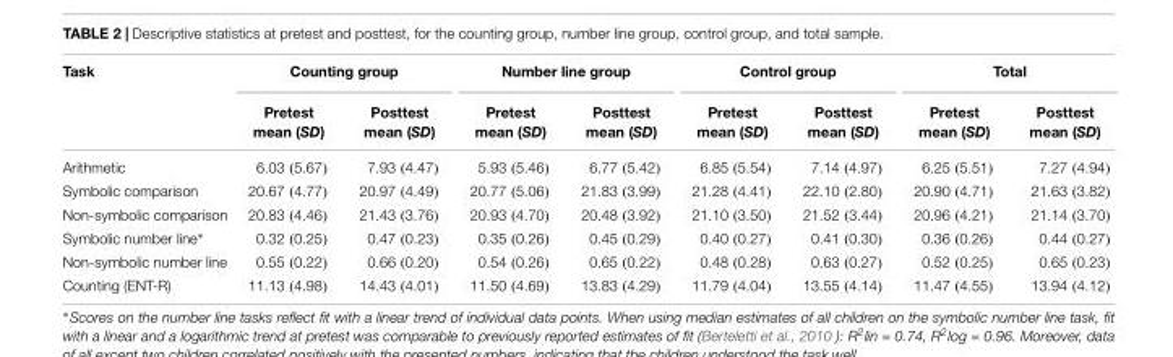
<table><thead><tr><td rowspan="2">Task</td><td colspan="2">Counting group</td><td colspan="2">Number line group</td><td colspan="2">Control group</td><td colspan="2">Total</td></tr><tr><td>Pretest mean (SD)</td><td>Posttest mean (SD)</td><td>Pretest mean (SD)</td><td>Posttest mean (SD)</td><td>Pretest mean (SD)</td><td>Posttest mean (SD)</td><td>Pretest mean (SD)</td><td>Posttest mean (SD)</td></tr></thead><tbody><tr><td>Arithmetic</td><td>6.03 (5.67)</td><td>7.93 (4.47)</td><td>5.93 (5.46)</td><td>6.77 (5.42)</td><td>6.85 (5.54)</td><td>7.14 (4.97)</td><td>6.25 (5.51)</td><td>7.27 (4.94)</td></tr><tr><td>Symbolic comparison</td><td>20.67 (4.77)</td><td>20.97 (4.49)</td><td>20.77 (5.06)</td><td>21.83 (3.99)</td><td>21.28 (4.41)</td><td>22.10 (2.80)</td><td>20.90 (4.71)</td><td>21.63 (3.82)</td></tr><tr><td>Non-symbolic comparison</td><td>20.83 (4.46)</td><td>21.43 (3.76)</td><td>20.93 (4.70)</td><td>20.48 (3.92)</td><td>21.10 (3.50)</td><td>21.52 (3.44)</td><td>20.96 (4.21)</td><td>21.14 (3.70)</td></tr><tr><td>Symbolic number line∗</td><td>0.32 (0.25)</td><td>0.47 (0.23)</td><td>0.35 (0.26)</td><td>0.45 (0.29)</td><td>0.40 (0.27)</td><td>0.41 (0.30)</td><td>0.36 (0.26)</td><td>0.44 (0.27)</td></tr><tr><td>Non-symbolic number line</td><td>0.55 (0.22)</td><td>0.66 (0.20)</td><td>0.54 (0.26)</td><td>0.65 (0.22)</td><td>0.48 (0.28)</td><td>0.63 (0.27)</td><td>0.52 (0.25)</td><td>0.65 (0.23)</td></tr><tr><td>Counting (ENT-R)</td><td>11.13 (4.98)</td><td>14.43 (4.01)</td><td>11.50 (4.69)</td><td>13.83 (4.29)</td><td>11.79 (4.04)</td><td>13.55 (4.14)</td><td>11.47 (4.55)</td><td>13.94 (4.12)</td></tr></tbody></table>